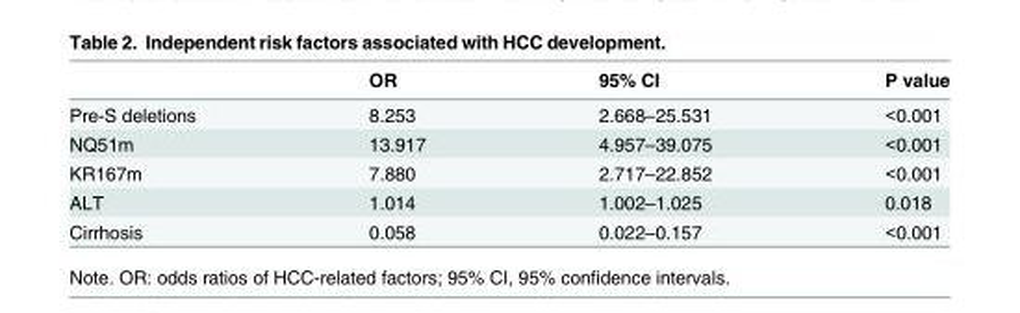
<table><thead><tr><td></td><td>OR</td><td>95% CI</td><td>P value</td></tr></thead><tbody><tr><td>Pre-S deletions</td><td>8.253</td><td>2.668–25.531</td><td>&lt;0.001</td></tr><tr><td>NQ51m</td><td>13.917</td><td>4.957–39.075</td><td>&lt;0.001</td></tr><tr><td>KR167m</td><td>7.880</td><td>2.717–22.852</td><td>&lt;0.001</td></tr><tr><td>ALT</td><td>1.014</td><td>1.002–1.025</td><td>0.018</td></tr><tr><td>Cirrhosis</td><td>0.058</td><td>0.022–0.157</td><td>&lt;0.001</td></tr></tbody></table>